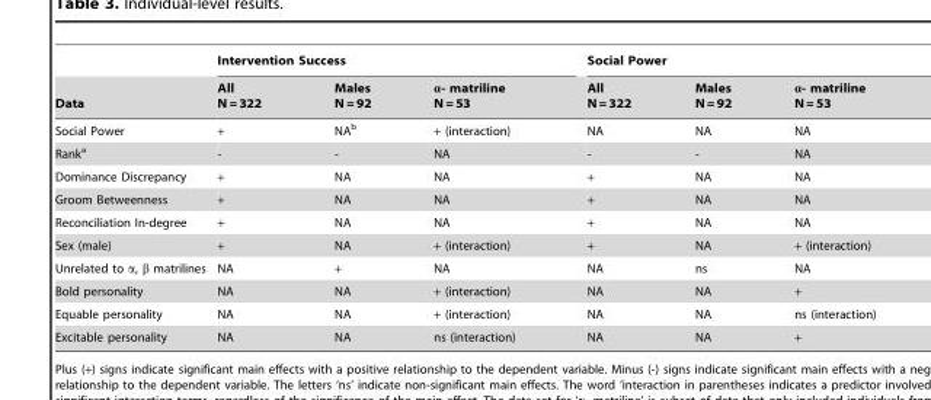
<table><thead><tr><td rowspan="2">Data</td><td colspan="3">Intervention Success</td><td colspan="3">Social Power</td></tr><tr><td>All N = 322</td><td>Males N = 92</td><td>α- matriline N = 53</td><td>All N = 322</td><td>Males N = 92</td><td>α- matriline N = 53</td></tr></thead><tbody><tr><td>Social Power</td><td>+</td><td>NA<sup>b</sup></td><td>+ (interaction)</td><td>NA</td><td>NA</td><td>NA</td></tr><tr><td>Rank<sup>a</sup></td><td>-</td><td>-</td><td>NA</td><td>-</td><td>-</td><td>NA</td></tr><tr><td>Dominance Discrepancy</td><td>+</td><td>NA</td><td>NA</td><td>+</td><td>NA</td><td>NA</td></tr><tr><td>Groom Betweenness</td><td>+</td><td>NA</td><td>NA</td><td>+</td><td>NA</td><td>NA</td></tr><tr><td>Reconciliation In-degree</td><td>+</td><td>NA</td><td>NA</td><td>+</td><td>NA</td><td>NA</td></tr><tr><td>Sex (male)</td><td>+</td><td>NA</td><td>+ (interaction)</td><td>+</td><td>NA</td><td>+ (interaction)</td></tr><tr><td>Unrelated to α, β matrilines</td><td>NA</td><td>+</td><td>NA</td><td>NA</td><td>ns</td><td>NA</td></tr><tr><td>Bold personality</td><td>NA</td><td>NA</td><td>+ (interaction)</td><td>NA</td><td>NA</td><td>+</td></tr><tr><td>Equable personality</td><td>NA</td><td>NA</td><td>+ (interaction)</td><td>NA</td><td>NA</td><td>ns (interaction)</td></tr><tr><td>Excitable personality</td><td>NA</td><td>NA</td><td>ns (interaction)</td><td>NA</td><td>NA</td><td>+</td></tr></tbody></table>